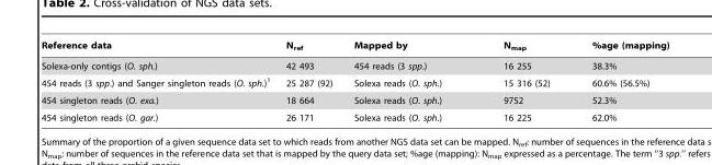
<table><thead><tr><td>Reference data</td><td>N<sub>ref</sub></td><td>Mapped by</td><td>N<sub>map</sub></td><td>%age (mapping)</td></tr></thead><tbody><tr><td>Solexa-only contigs (O. sph.)</td><td>42 493</td><td>454 reads (3 spp.)</td><td>16 255</td><td>38.3%</td></tr><tr><td>454 reads (3 spp.) and Sanger singleton reads (O. sph.)<sup>1</sup></td><td>25 287 (92)</td><td>Solexa reads (O. sph.)</td><td>15 316 (52)</td><td>60.6% (56.5%)</td></tr><tr><td>454 singleton reads (O. exa.)</td><td>18 664</td><td>Solexa reads (O. sph.)</td><td>9752</td><td>52.3%</td></tr><tr><td>454 singleton reads (O. gar.)</td><td>26 171</td><td>Solexa reads (O. sph.)</td><td>16 225</td><td>62.0%</td></tr></tbody></table>